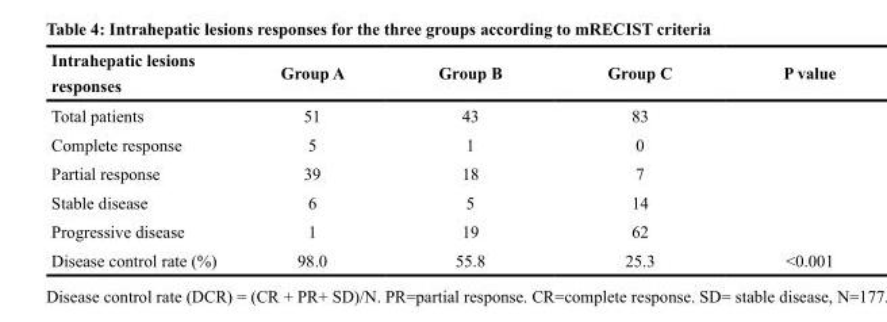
<table><thead><tr><td>Intrahepatic lesions responses</td><td>Group A</td><td>Group B</td><td>Group C</td><td>P value</td></tr></thead><tbody><tr><td>Total patients</td><td>51</td><td>43</td><td>83</td><td></td></tr><tr><td>Complete response</td><td>5</td><td>1</td><td>0</td><td></td></tr><tr><td>Partial response</td><td>39</td><td>18</td><td>7</td><td></td></tr><tr><td>Stable disease</td><td>6</td><td>5</td><td>14</td><td></td></tr><tr><td>Progressive disease</td><td>1</td><td>19</td><td>62</td><td></td></tr><tr><td>Disease control rate (%)</td><td>98.0</td><td>55.8</td><td>25.3</td><td>&lt;0.001</td></tr></tbody></table>